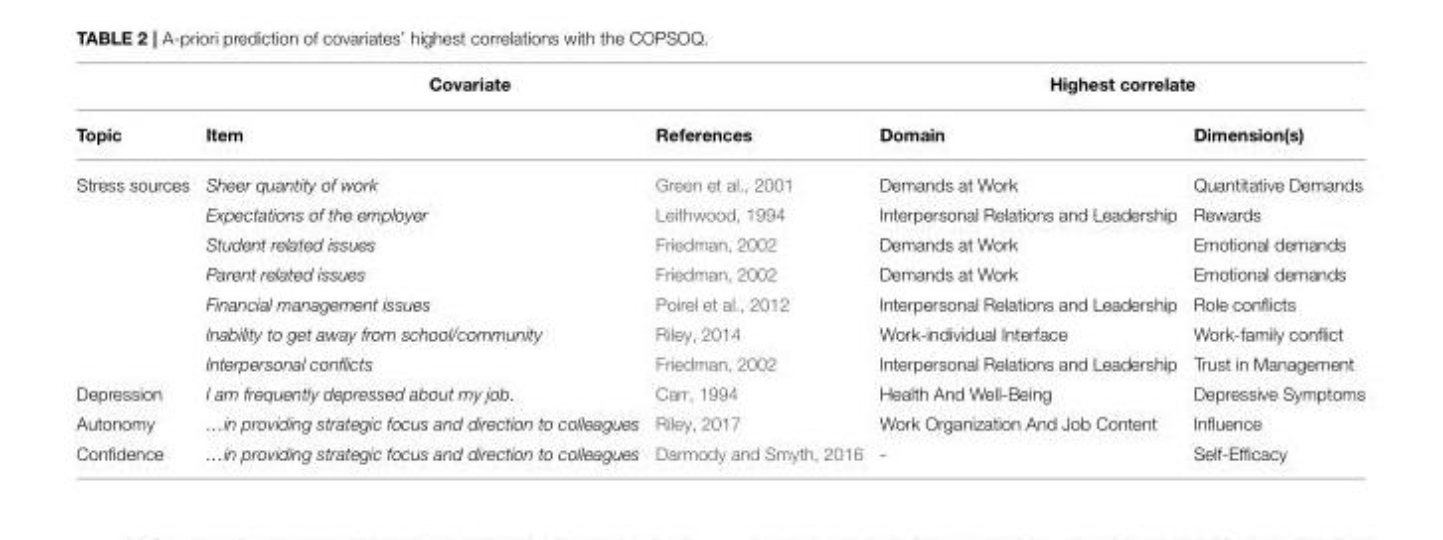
<table><thead><tr><td colspan="3">Covariate</td><td colspan="2">Highest correlate</td></tr><tr><td>Topic</td><td>Item</td><td>References</td><td>Domain</td><td>Dimension(s)</td></tr></thead><tbody><tr><td rowspan="7">Stress sources</td><td>Sheer quantity of work</td><td>Green et al., 2001</td><td>Demands at Work</td><td>Quantitative Demands</td></tr><tr><td>Expectations of the employer</td><td>Leithwood, 1994</td><td>Interpersonal Relations and Leadership</td><td>Rewards</td></tr><tr><td>Student related issues</td><td>Friedman, 2002</td><td>Demands at Work</td><td>Emotional demands</td></tr><tr><td>Parent related issues</td><td>Friedman, 2002</td><td>Demands at Work</td><td>Emotional demands</td></tr><tr><td>Financial management issues</td><td>Poirel et al., 2012</td><td>Interpersonal Relations and Leadership</td><td>Role conflicts</td></tr><tr><td>Inability to get away from school/community</td><td>Riley, 2014</td><td>Work-individual Interface</td><td>Work-family conflict</td></tr><tr><td>Interpersonal conflicts</td><td>Friedman, 2002</td><td>Interpersonal Relations and Leadership</td><td>Trust in Management</td></tr><tr><td>Depression</td><td>I am frequently depressed about my job.</td><td>Carr, 1994</td><td>Health And Well-Being</td><td>Depressive Symptoms</td></tr><tr><td>Autonomy</td><td>…in providing strategic focus and direction to colleagues</td><td>Riley, 2017</td><td>Work Organization And Job Content</td><td>Influence</td></tr><tr><td>Confidence</td><td>…in providing strategic focus and direction to colleagues</td><td>Darmody and Smyth, 2016</td><td>-</td><td>Self-Efficacy</td></tr></tbody></table>